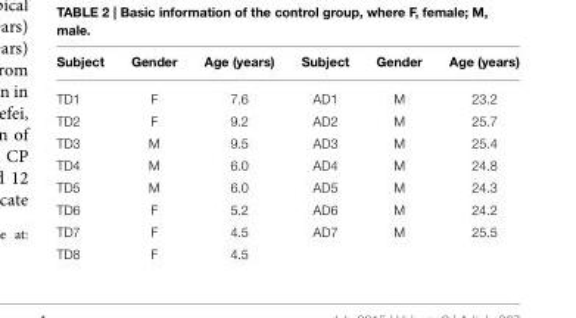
<table><thead><tr><td>Subject</td><td>Gender</td><td>Age (years)</td><td>Subject</td><td>Gender</td><td>Age (years)</td></tr></thead><tbody><tr><td>TD1</td><td>F</td><td>7.6</td><td>AD1</td><td>M</td><td>23.2</td></tr><tr><td>TD2</td><td>F</td><td>9.2</td><td>AD2</td><td>M</td><td>25.7</td></tr><tr><td>TD3</td><td>M</td><td>9.5</td><td>AD3</td><td>M</td><td>25.4</td></tr><tr><td>TD4</td><td>M</td><td>6.0</td><td>AD4</td><td>M</td><td>24.8</td></tr><tr><td>TD5</td><td>M</td><td>6.0</td><td>AD5</td><td>M</td><td>24.3</td></tr><tr><td>TD6</td><td>F</td><td>5.2</td><td>AD6</td><td>M</td><td>24.2</td></tr><tr><td>TD7</td><td>F</td><td>4.5</td><td>AD7</td><td>M</td><td>25.5</td></tr><tr><td>TD8</td><td>F</td><td>4.5</td><td></td><td></td><td></td></tr></tbody></table>